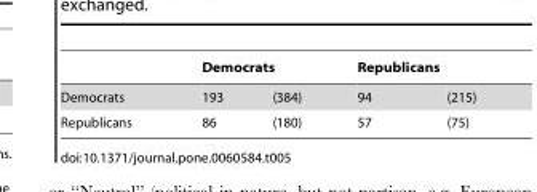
<table><thead><tr><td rowspan="2">Democrats</td><td colspan="2">Democrats</td><td colspan="2">Republicans</td></tr><tr><td>193</td><td>(384)</td><td>94</td><td>(215)</td></tr></thead><tbody><tr><td>Republicans</td><td>86</td><td>(180)</td><td>57</td><td>(75)</td></tr></tbody></table>